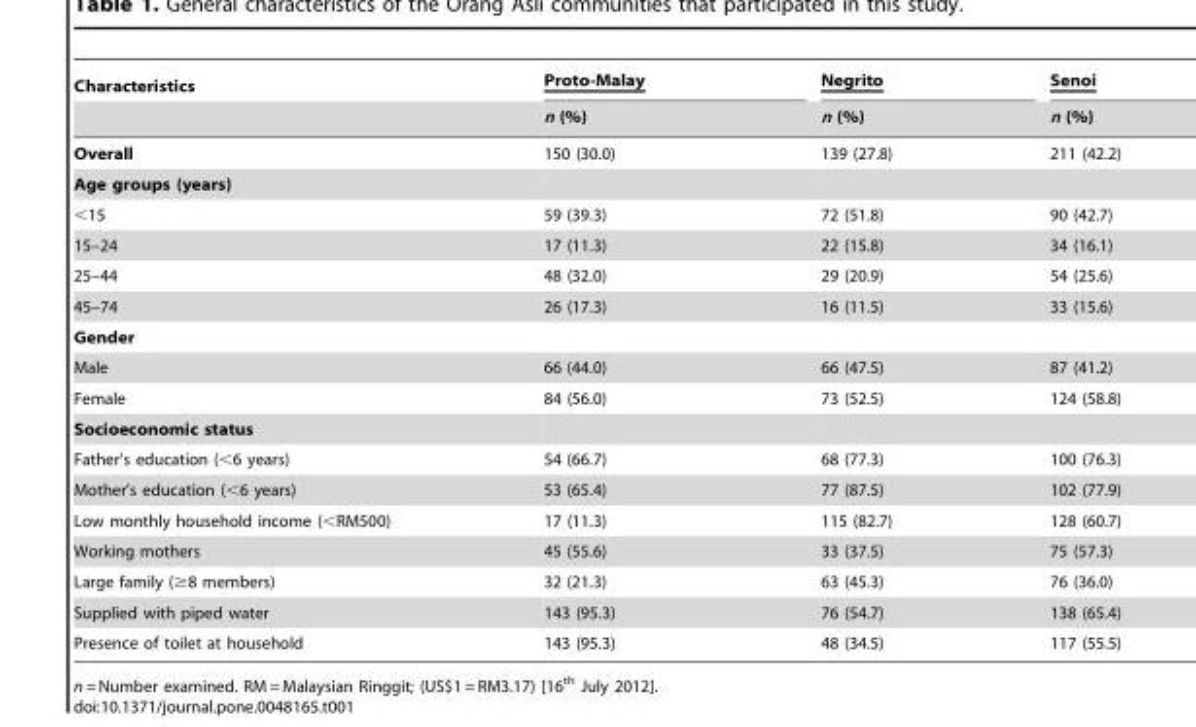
<table><thead><tr><td rowspan="2">Characteristics</td><td rowspan="2">Proto-Malay n (%)</td><td rowspan="2">Negrito n (%)</td><td rowspan="2">Senoi n (%)</td></tr><tr></tr></thead><tbody><tr><td>Overall</td><td>150 (30.0)</td><td>139 (27.8)</td><td>211 (42.2)</td></tr><tr><td colspan="4">Age groups (years)</td></tr><tr><td>&lt;15</td><td>59 (39.3)</td><td>72 (51.8)</td><td>90 (42.7)</td></tr><tr><td>15–24</td><td>17 (11.3)</td><td>22 (15.8)</td><td>34 (16.1)</td></tr><tr><td>25–44</td><td>48 (32.0)</td><td>29 (20.9)</td><td>54 (25.6)</td></tr><tr><td>45–74</td><td>26 (17.3)</td><td>16 (11.5)</td><td>33 (15.6)</td></tr><tr><td colspan="4">Gender</td></tr><tr><td>Male</td><td>66 (44.0)</td><td>66 (47.5)</td><td>87 (41.2)</td></tr><tr><td>Female</td><td>84 (56.0)</td><td>73 (52.5)</td><td>124 (58.8)</td></tr><tr><td colspan="4">Socioeconomic status</td></tr><tr><td>Father’s education (&lt;6 years)</td><td>54 (66.7)</td><td>68 (77.3)</td><td>100 (76.3)</td></tr><tr><td>Mother’s education (&lt;6 years)</td><td>53 (65.4)</td><td>77 (87.5)</td><td>102 (77.9)</td></tr><tr><td>Low monthly household income (&lt;RM500)</td><td>17 (11.3)</td><td>115 (82.7)</td><td>128 (60.7)</td></tr><tr><td>Working mothers</td><td>45 (55.6)</td><td>33 (37.5)</td><td>75 (57.3)</td></tr><tr><td>Large family (≥8 members)</td><td>32 (21.3)</td><td>63 (45.3)</td><td>76 (36.0)</td></tr><tr><td>Supplied with piped water</td><td>143 (95.3)</td><td>76 (54.7)</td><td>138 (65.4)</td></tr><tr><td>Presence of toilet at household</td><td>143 (95.3)</td><td>48 (34.5)</td><td>117 (55.5)</td></tr></tbody></table>